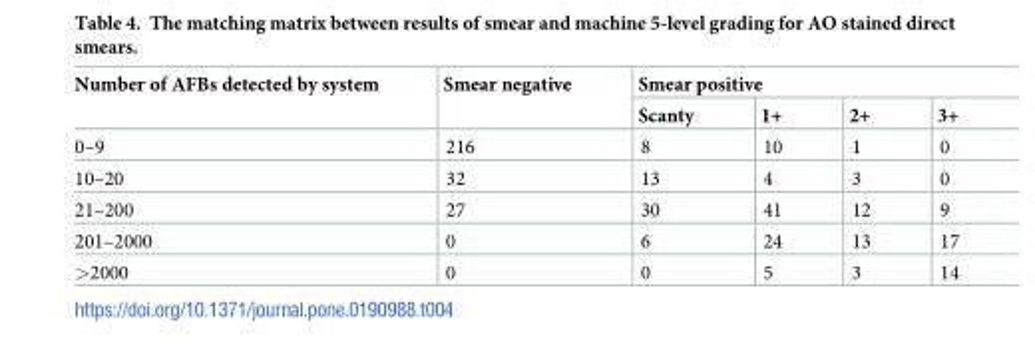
<table><thead><tr><td rowspan="2">Number of AFBs detected by system</td><td rowspan="2">Smear negative</td><td colspan="4">Smear positive</td></tr><tr><td>Scanty</td><td>1+</td><td>2+</td><td>3+</td></tr></thead><tbody><tr><td>0–9</td><td>216</td><td>8</td><td>10</td><td>1</td><td>0</td></tr><tr><td>10–20</td><td>32</td><td>13</td><td>4</td><td>3</td><td>0</td></tr><tr><td>21–200</td><td>27</td><td>30</td><td>41</td><td>12</td><td>9</td></tr><tr><td>201–2000</td><td>0</td><td>6</td><td>24</td><td>13</td><td>17</td></tr><tr><td>&gt;2000</td><td>0</td><td>0</td><td>5</td><td>3</td><td>14</td></tr></tbody></table>